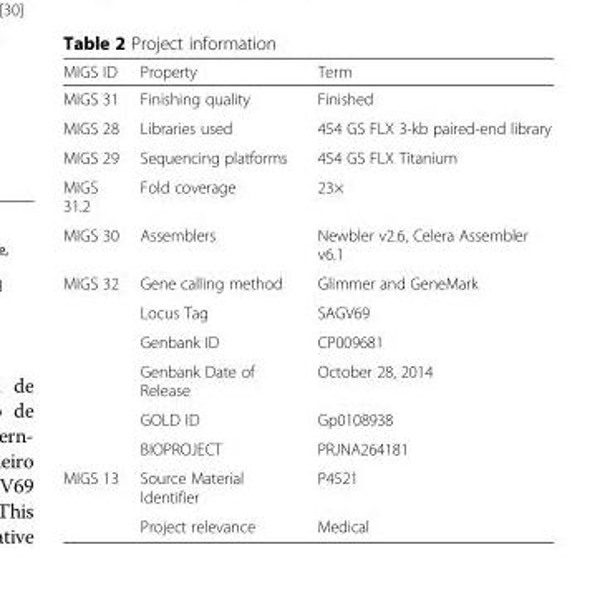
<table><thead><tr><td>MIGS ID</td><td>Property</td><td>Term</td></tr></thead><tbody><tr><td>MIGS 31</td><td>Finishing quality</td><td>Finished</td></tr><tr><td>MIGS 28</td><td>Libraries used</td><td>454 GS FLX 3-kb paired-end library</td></tr><tr><td>MIGS 29</td><td>Sequencing platforms</td><td>454 GS FLX Titanium</td></tr><tr><td>MIGS 31.2</td><td>Fold coverage</td><td>23×</td></tr><tr><td>MIGS 30</td><td>Assemblers</td><td>Newbler v2.6, Celera Assembler v6.1</td></tr><tr><td rowspan="6">MIGS 32</td><td>Gene calling method</td><td>Glimmer and GeneMark</td></tr><tr><td>Locus Tag</td><td>SAGV69</td></tr><tr><td>Genbank ID</td><td>CP009681</td></tr><tr><td>Genbank Date of Release</td><td>October 28, 2014</td></tr><tr><td>GOLD ID</td><td>Gp0108938</td></tr><tr><td>BIOPROJECT</td><td>PRJNA264181</td></tr><tr><td rowspan="2">MIGS 13</td><td>Source Material Identifier</td><td>P4521</td></tr><tr><td>Project relevance</td><td>Medical</td></tr></tbody></table>